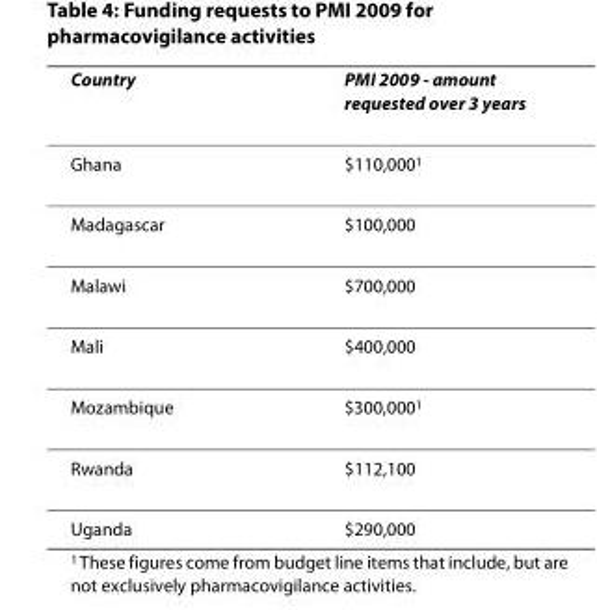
<table><thead><tr><td>Country</td><td>PMI 2009 - amount requested over 3 years</td></tr></thead><tbody><tr><td>Ghana</td><td>$110,000<sup>1</sup></td></tr><tr><td>Madagascar</td><td>$100,000</td></tr><tr><td>Malawi</td><td>$700,000</td></tr><tr><td>Mali</td><td>$400,000</td></tr><tr><td>Mozambique</td><td>$300,000<sup>1</sup></td></tr><tr><td>Rwanda</td><td>$112,100</td></tr><tr><td>Uganda</td><td>$290,000</td></tr></tbody></table>